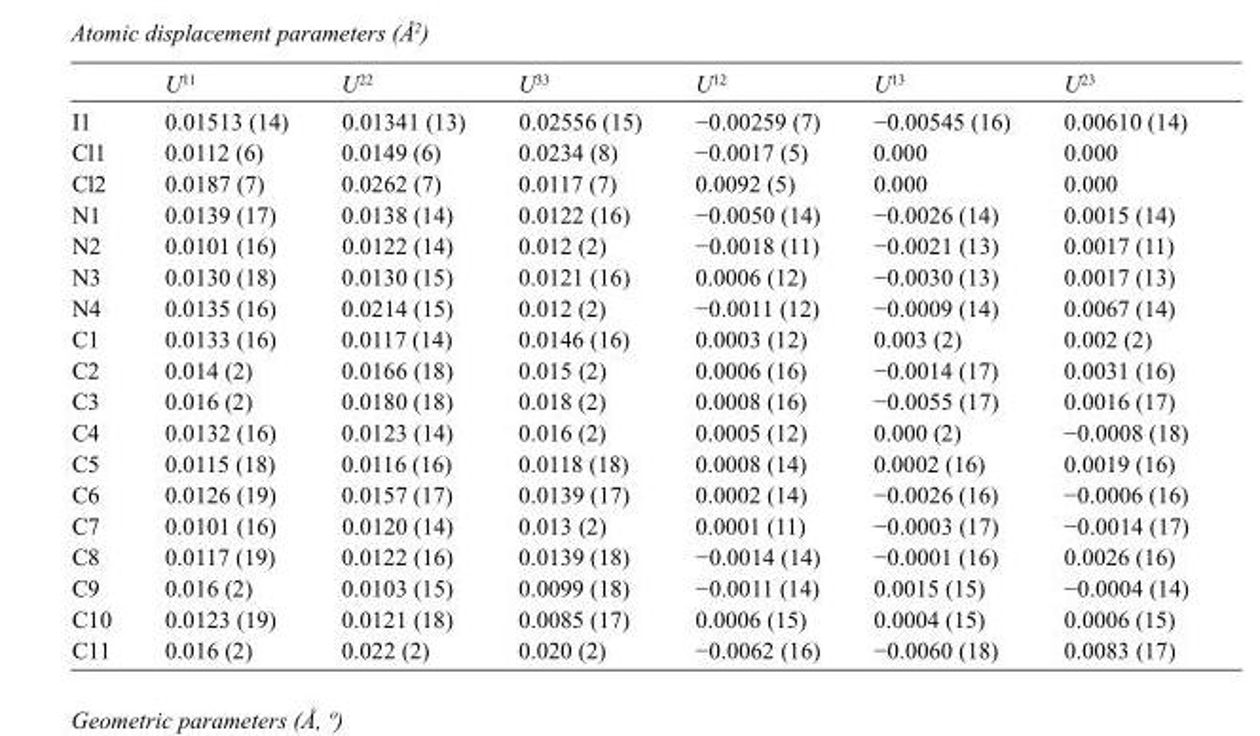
<table><thead><tr><td></td><td>U<sup>11</sup></td><td>U<sup>22</sup></td><td>U<sup>33</sup></td><td>U<sup>12</sup></td><td>U<sup>13</sup></td><td>U<sup>23</sup></td></tr></thead><tbody><tr><td>I1</td><td>0.01513 (14)</td><td>0.01341 (13)</td><td>0.02556 (15)</td><td>−0.00259 (7)</td><td>−0.00545 (16)</td><td>0.00610 (14)</td></tr><tr><td>Cl1</td><td>0.0112 (6)</td><td>0.0149 (6)</td><td>0.0234 (8)</td><td>−0.0017 (5)</td><td>0.000</td><td>0.000</td></tr><tr><td>Cl2</td><td>0.0187 (7)</td><td>0.0262 (7)</td><td>0.0117 (7)</td><td>0.0092 (5)</td><td>0.000</td><td>0.000</td></tr><tr><td>N1</td><td>0.0139 (17)</td><td>0.0138 (14)</td><td>0.0122 (16)</td><td>−0.0050 (14)</td><td>−0.0026 (14)</td><td>0.0015 (14)</td></tr><tr><td>N2</td><td>0.0101 (16)</td><td>0.0122 (14)</td><td>0.012 (2)</td><td>−0.0018 (11)</td><td>−0.0021 (13)</td><td>0.0017 (11)</td></tr><tr><td>N3</td><td>0.0130 (18)</td><td>0.0130 (15)</td><td>0.0121 (16)</td><td>0.0006 (12)</td><td>−0.0030 (13)</td><td>0.0017 (13)</td></tr><tr><td>N4</td><td>0.0135 (16)</td><td>0.0214 (15)</td><td>0.012 (2)</td><td>−0.0011 (12)</td><td>−0.0009 (14)</td><td>0.0067 (14)</td></tr><tr><td>C1</td><td>0.0133 (16)</td><td>0.0117 (14)</td><td>0.0146 (16)</td><td>0.0003 (12)</td><td>0.003 (2)</td><td>0.002 (2)</td></tr><tr><td>C2</td><td>0.014 (2)</td><td>0.0166 (18)</td><td>0.015 (2)</td><td>0.0006 (16)</td><td>−0.0014 (17)</td><td>0.0031 (16)</td></tr><tr><td>C3</td><td>0.016 (2)</td><td>0.0180 (18)</td><td>0.018 (2)</td><td>0.0008 (16)</td><td>−0.0055 (17)</td><td>0.0016 (17)</td></tr><tr><td>C4</td><td>0.0132 (16)</td><td>0.0123 (14)</td><td>0.016 (2)</td><td>0.0005 (12)</td><td>0.000 (2)</td><td>−0.0008 (18)</td></tr><tr><td>C5</td><td>0.0115 (18)</td><td>0.0116 (16)</td><td>0.0118 (18)</td><td>0.0008 (14)</td><td>0.0002 (16)</td><td>0.0019 (16)</td></tr><tr><td>C6</td><td>0.0126 (19)</td><td>0.0157 (17)</td><td>0.0139 (17)</td><td>0.0002 (14)</td><td>−0.0026 (16)</td><td>−0.0006 (16)</td></tr><tr><td>C7</td><td>0.0101 (16)</td><td>0.0120 (14)</td><td>0.013 (2)</td><td>0.0001 (11)</td><td>−0.0003 (17)</td><td>−0.0014 (17)</td></tr><tr><td>C8</td><td>0.0117 (19)</td><td>0.0122 (16)</td><td>0.0139 (18)</td><td>−0.0014 (14)</td><td>−0.0001 (16)</td><td>0.0026 (16)</td></tr><tr><td>C9</td><td>0.016 (2)</td><td>0.0103 (15)</td><td>0.0099 (18)</td><td>−0.0011 (14)</td><td>0.0015 (15)</td><td>−0.0004 (14)</td></tr><tr><td>C10</td><td>0.0123 (19)</td><td>0.0121 (18)</td><td>0.0085 (17)</td><td>0.0006 (15)</td><td>0.0004 (15)</td><td>0.0006 (15)</td></tr><tr><td>C11</td><td>0.016 (2)</td><td>0.022 (2)</td><td>0.020 (2)</td><td>−0.0062 (16)</td><td>−0.0060 (18)</td><td>0.0083 (17)</td></tr></tbody></table>